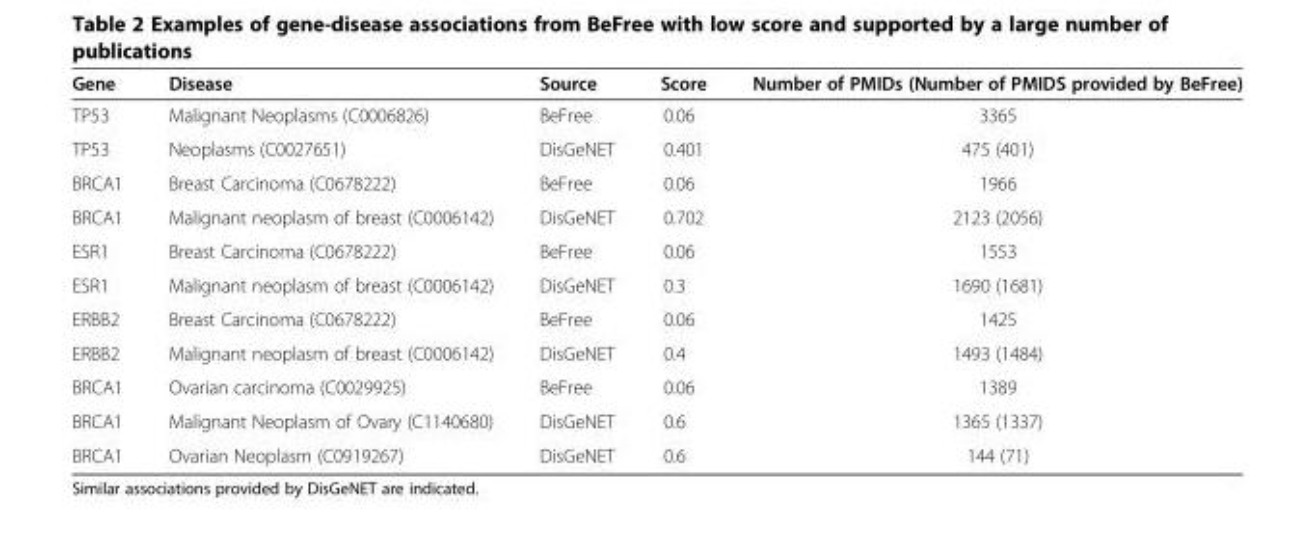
<table><thead><tr><td>Gene</td><td>Disease</td><td>Source</td><td>Score</td><td>Number of PMIDs (Number of PMIDS provided by BeFree)</td></tr></thead><tbody><tr><td>TP53</td><td>Malignant Neoplasms (C0006826)</td><td>BeFree</td><td>0.06</td><td>3365</td></tr><tr><td>TP53</td><td>Neoplasms (C0027651)</td><td>DisGeNET</td><td>0.401</td><td>475 (401)</td></tr><tr><td>BRCA1</td><td>Breast Carcinoma (C0678222)</td><td>BeFree</td><td>0.06</td><td>1966</td></tr><tr><td>BRCA1</td><td>Malignant neoplasm of breast (C0006142)</td><td>DisGeNET</td><td>0.702</td><td>2123 (2056)</td></tr><tr><td>ESR1</td><td>Breast Carcinoma (C0678222)</td><td>BeFree</td><td>0.06</td><td>1553</td></tr><tr><td>ESR1</td><td>Malignant neoplasm of breast (C0006142)</td><td>DisGeNET</td><td>0.3</td><td>1690 (1681)</td></tr><tr><td>ERBB2</td><td>Breast Carcinoma (C0678222)</td><td>BeFree</td><td>0.06</td><td>1425</td></tr><tr><td>ERBB2</td><td>Malignant neoplasm of breast (C0006142)</td><td>DisGeNET</td><td>0.4</td><td>1493 (1484)</td></tr><tr><td>BRCA1</td><td>Ovarian carcinoma (C0029925)</td><td>BeFree</td><td>0.06</td><td>1389</td></tr><tr><td>BRCA1</td><td>Malignant Neoplasm of Ovary (C1140680)</td><td>DisGeNET</td><td>0.6</td><td>1365 (1337)</td></tr><tr><td>BRCA1</td><td>Ovarian Neoplasm (C0919267)</td><td>DisGeNET</td><td>0.6</td><td>144 (71)</td></tr></tbody></table>